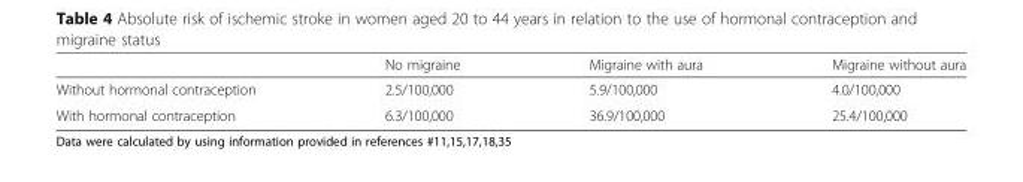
<table><thead><tr><td></td><td>No migraine</td><td>Migraine with aura</td><td>Migraine without aura</td></tr></thead><tbody><tr><td>Without hormonal contraception</td><td>2.5/100,000</td><td>5.9/100,000</td><td>4.0/100,000</td></tr><tr><td>With hormonal contraception</td><td>6.3/100,000</td><td>36.9/100,000</td><td>25.4/100,000</td></tr></tbody></table>